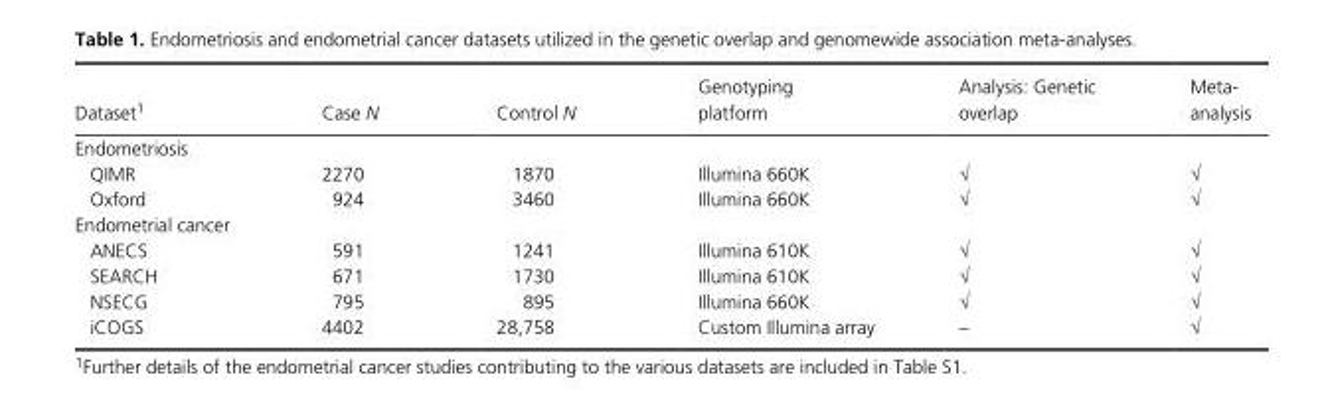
<table><thead><tr><td>Dataset1</td><td>Case N</td><td>Control N</td><td>Genotyping platform</td><td>Analysis: Genetic overlap</td><td>Meta- analysis</td></tr></thead><tbody><tr><td colspan="6">Endometriosis</td></tr><tr><td>QIMR</td><td>2270</td><td>1870</td><td>Illumina 660K</td><td>√</td><td>√</td></tr><tr><td>Oxford</td><td>924</td><td>3460</td><td>Illumina 660K</td><td>√</td><td>√</td></tr><tr><td colspan="6">Endometrial cancer</td></tr><tr><td>ANECS</td><td>591</td><td>1241</td><td>Illumina 610K</td><td>√</td><td>√</td></tr><tr><td>SEARCH</td><td>671</td><td>1730</td><td>Illumina 610K</td><td>√</td><td>√</td></tr><tr><td>NSECG</td><td>795</td><td>895</td><td>Illumina 660K</td><td>√</td><td>√</td></tr><tr><td>iCOGS</td><td>4402</td><td>28,758</td><td>Custom Illumina array</td><td>–</td><td>√</td></tr></tbody></table>